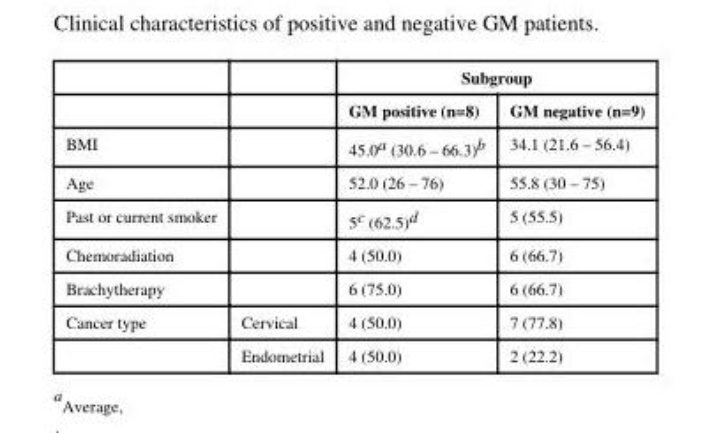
<table><thead><tr><td rowspan="2"></td><td rowspan="2"></td><td colspan="2">Subgroup</td></tr><tr><td>GM positive (n=8)</td><td>GM negative (n=9)</td></tr></thead><tbody><tr><td>BMI</td><td></td><td>45.0<sup>a</sup> (30.6 – 66.3)<sup>b</sup></td><td>34.1 (21.6 – 56.4)</td></tr><tr><td>Age</td><td></td><td>52.0 (26 – 76)</td><td>55.8 (30 – 75)</td></tr><tr><td>Past or current smoker</td><td></td><td>5<sup>c</sup> (62.5)<sup>d</sup></td><td>5 (55.5)</td></tr><tr><td>Chemoradiation</td><td></td><td>4 (50.0)</td><td>6 (66.7)</td></tr><tr><td>Brachytherapy</td><td></td><td>6 (75.0)</td><td>6 (66.7)</td></tr><tr><td rowspan="2">Cancer type</td><td>Cervical</td><td>4 (50.0)</td><td>7 (77.8)</td></tr><tr><td>Endometrial</td><td>4 (50.0)</td><td>2 (22.2)</td></tr></tbody></table>